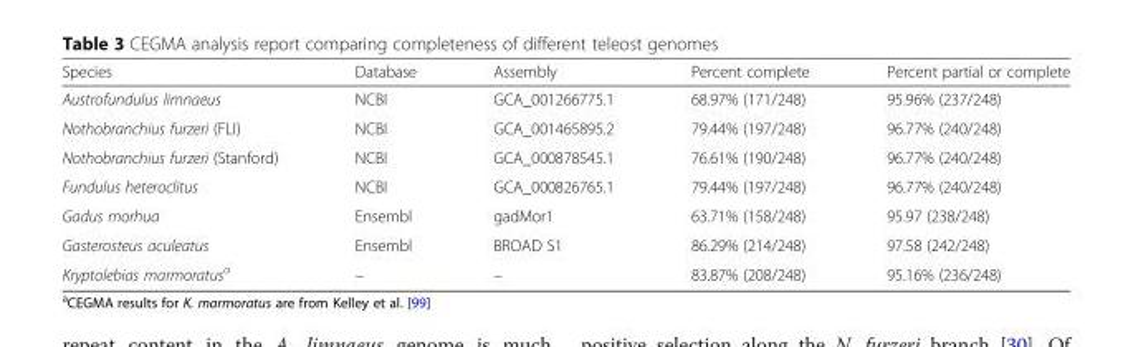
<table><thead><tr><td>Species</td><td>Database</td><td>Assembly</td><td>Percent complete</td><td>Percent partial or complete</td></tr></thead><tbody><tr><td>Austrofundulus limnaeus</td><td>NCBI</td><td>GCA_001266775.1</td><td>68.97% (171/248)</td><td>95.96% (237/248)</td></tr><tr><td>Nothobranchius furzeri (FLI)</td><td>NCBI</td><td>GCA_001465895.2</td><td>79.44% (197/248)</td><td>96.77% (240/248)</td></tr><tr><td>Nothobranchius furzeri (Stanford)</td><td>NCBI</td><td>GCA_000878545.1</td><td>76.61% (190/248)</td><td>96.77% (240/248)</td></tr><tr><td>Fundulus heteroclitus</td><td>NCBI</td><td>GCA_000826765.1</td><td>79.44% (197/248)</td><td>96.77% (240/248)</td></tr><tr><td>Gadus morhua</td><td>Ensembl</td><td>gadMor1</td><td>63.71% (158/248)</td><td>95.97 (238/248)</td></tr><tr><td>Gasterosteus aculeatus</td><td>Ensembl</td><td>BROAD S1</td><td>86.29% (214/248)</td><td>97.58 (242/248)</td></tr><tr><td>Kryptolebias marmoratus<sup>a</sup></td><td>–</td><td>–</td><td>83.87% (208/248)</td><td>95.16% (236/248)</td></tr></tbody></table>